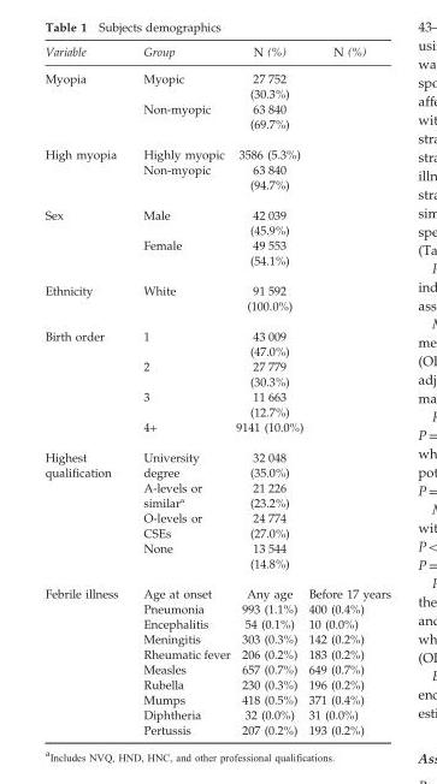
<table><thead><tr><td>Variable</td><td>Group</td><td>N (%)</td><td>N (%)</td></tr></thead><tbody><tr><td rowspan="2">Myopia</td><td>Myopic</td><td>27 752 (30.3%)</td><td></td></tr><tr><td>Non-myopic</td><td>63 840 (69.7%)</td><td></td></tr><tr><td rowspan="2">High myopia</td><td>Highly myopic</td><td>3586 (5.3%)</td><td></td></tr><tr><td>Non-myopic</td><td>63 840 (94.7%)</td><td></td></tr><tr><td rowspan="2">Sex</td><td>Male</td><td>42 039 (45.9%)</td><td></td></tr><tr><td>Female</td><td>49 553 (54.1%)</td><td></td></tr><tr><td>Ethnicity</td><td>White</td><td>91 592 (100.0%)</td><td></td></tr><tr><td rowspan="4">Birth order</td><td>1</td><td>43 009 (47.0%)</td><td></td></tr><tr><td>2</td><td>27 779 (30.3%)</td><td></td></tr><tr><td>3</td><td>11 663 (12.7%)</td><td></td></tr><tr><td>4+</td><td>9141 (10.0%)</td><td></td></tr><tr><td rowspan="4">Highest qualification</td><td>University degree</td><td>32 048 (35.0%)</td><td></td></tr><tr><td>A-levels or similar<sup>a</sup></td><td>21 226 (23.2%)</td><td></td></tr><tr><td>O-levels or CSEs</td><td>24 774 (27.0%)</td><td></td></tr><tr><td>None</td><td>13 544 (14.8%)</td><td></td></tr><tr><td rowspan="10">Febrile illness</td><td>Age at onset</td><td>Any age</td><td>Before 17 years</td></tr><tr><td>Pneumonia</td><td>993 (1.1%)</td><td>400 (0.4%)</td></tr><tr><td>Encephalitis</td><td>54 (0.1%)</td><td>10 (0.0%)</td></tr><tr><td>Meningitis</td><td>303 (0.3%)</td><td>142 (0.2%)</td></tr><tr><td>Rheumatic fever</td><td>206 (0.2%)</td><td>183 (0.2%)</td></tr><tr><td>Measles</td><td>657 (0.7%)</td><td>649 (0.7%)</td></tr><tr><td>Rubella</td><td>230 (0.3%)</td><td>196 (0.2%)</td></tr><tr><td>Mumps</td><td>418 (0.5%)</td><td>371 (0.4%)</td></tr><tr><td>Diphtheria</td><td>32 (0.0%)</td><td>31 (0.0%)</td></tr><tr><td>Pertussis</td><td>207 (0.2%)</td><td>193 (0.2%)</td></tr></tbody></table>